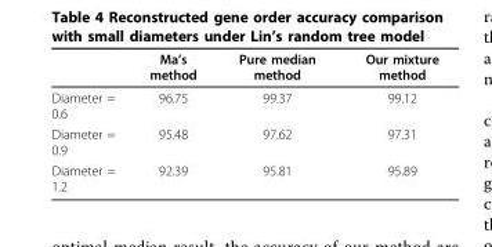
<table><thead><tr><td></td><td>Ma’s method</td><td>Pure median method</td><td>Our mixture method</td></tr></thead><tbody><tr><td>Diameter = 0.6</td><td>96.75</td><td>99.37</td><td>99.12</td></tr><tr><td>Diameter = 0.9</td><td>95.48</td><td>97.62</td><td>97.31</td></tr><tr><td>Diameter = 1.2</td><td>92.39</td><td>95.81</td><td>95.89</td></tr></tbody></table>